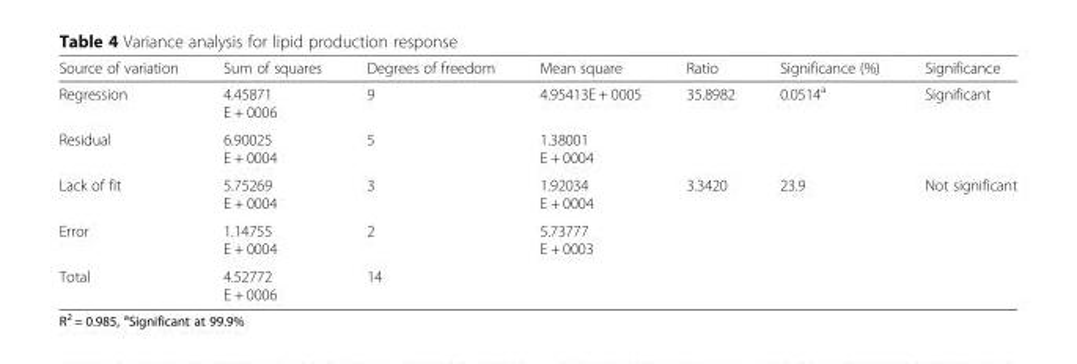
<table><thead><tr><td>Source of variation</td><td>Sum of squares</td><td>Degrees of freedom</td><td>Mean square</td><td>Ratio</td><td>Significance (%)</td><td>Significance</td></tr></thead><tbody><tr><td>Regression</td><td>4.45871 E + 0006</td><td>9</td><td>4.95413E + 0005</td><td>35.8982</td><td>0.0514<sup>a</sup></td><td>Significant</td></tr><tr><td>Residual</td><td>6.90025 E + 0004</td><td>5</td><td>1.38001 E + 0004</td><td></td><td></td><td></td></tr><tr><td>Lack of fit</td><td>5.75269 E + 0004</td><td>3</td><td>1.92034 E + 0004</td><td>3.3420</td><td>23.9</td><td>Not significant</td></tr><tr><td>Error</td><td>1.14755 E + 0004</td><td>2</td><td>5.73777 E + 0003</td><td></td><td></td><td></td></tr><tr><td>Total</td><td>4.52772 E + 0006</td><td>14</td><td></td><td></td><td></td><td></td></tr></tbody></table>